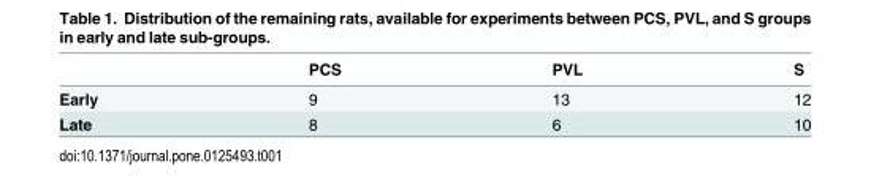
<table><thead><tr><td></td><td>PCS</td><td>PVL</td><td>S</td></tr></thead><tbody><tr><td>Early</td><td>9</td><td>13</td><td>12</td></tr><tr><td>Late</td><td>8</td><td>6</td><td>10</td></tr></tbody></table>